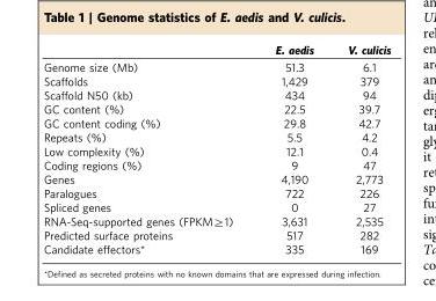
<table><thead><tr><td></td><td>E. aedis</td><td>V. culicis</td></tr></thead><tbody><tr><td>Genome size (Mb)</td><td>51.3</td><td>6.1</td></tr><tr><td>Scaffolds</td><td>1,429</td><td>379</td></tr><tr><td>Scaffold N50 (kb)</td><td>434</td><td>94</td></tr><tr><td>GC content (%)</td><td>22.5</td><td>39.7</td></tr><tr><td>GC content coding (%)</td><td>29.8</td><td>42.7</td></tr><tr><td>Repeats (%)</td><td>5.5</td><td>4.2</td></tr><tr><td>Low complexity (%)</td><td>12.1</td><td>0.4</td></tr><tr><td>Coding regions (%)</td><td>9</td><td>47</td></tr><tr><td>Genes</td><td>4,190</td><td>2,773</td></tr><tr><td>Paralogues</td><td>722</td><td>226</td></tr><tr><td>Spliced genes</td><td>0</td><td>27</td></tr><tr><td>RNA-Seq-supported genes (FPKM≥1)</td><td>3,631</td><td>2,535</td></tr><tr><td>Predicted surface proteins</td><td>517</td><td>282</td></tr><tr><td>Candidate effectors*</td><td>335</td><td>169</td></tr></tbody></table>